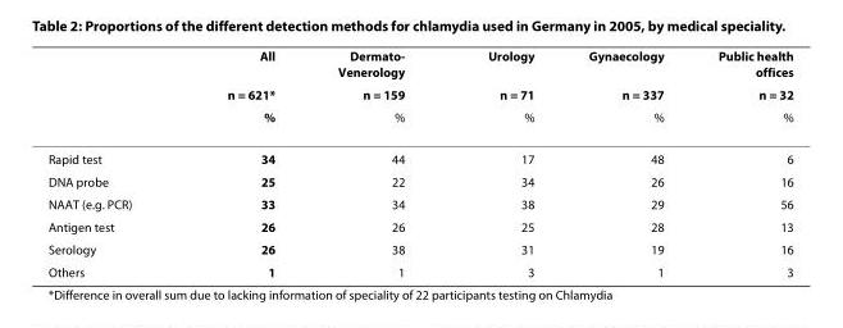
<table><thead><tr><td rowspan="3"></td><td rowspan="3">All n = 621* %</td><td rowspan="3">Dermato- Venerology n = 159 %</td><td rowspan="3">Urology n = 71 %</td><td rowspan="3">Gynaecology n = 337 %</td><td rowspan="3">Public health offices n = 32 %</td></tr><tr></tr><tr></tr></thead><tbody><tr><td>Rapid test</td><td>34</td><td>44</td><td>17</td><td>48</td><td>6</td></tr><tr><td>DNA probe</td><td>25</td><td>22</td><td>34</td><td>26</td><td>16</td></tr><tr><td>NAAT (e.g. PCR)</td><td>33</td><td>34</td><td>38</td><td>29</td><td>56</td></tr><tr><td>Antigen test</td><td>26</td><td>26</td><td>25</td><td>28</td><td>13</td></tr><tr><td>Serology</td><td>26</td><td>38</td><td>31</td><td>19</td><td>16</td></tr><tr><td>Others</td><td>1</td><td>1</td><td>3</td><td>1</td><td>3</td></tr></tbody></table>